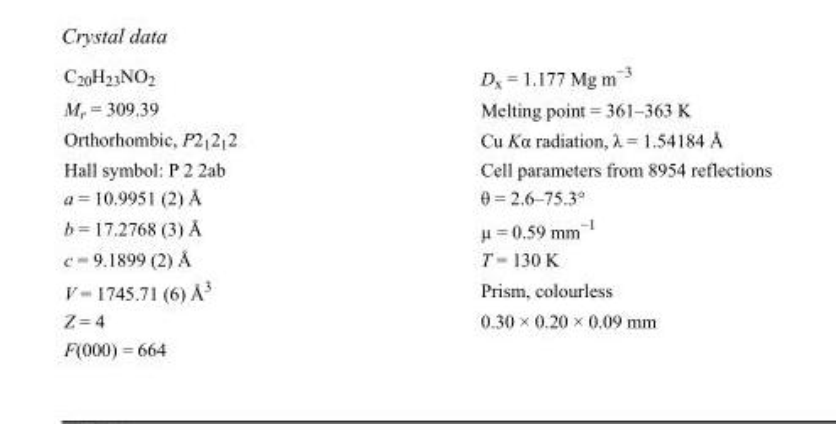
<table><tbody><tr><td>C<sub>20</sub>H<sub>23</sub>NO<sub>2</sub></td><td>D<sub>x</sub> = 1.177 Mg m<sup>−3</sup></td></tr><tr><td>M<sub>r</sub> = 309.39</td><td>Melting point = 361–363 K</td></tr><tr><td>Orthorhombic, P2<sub>1</sub>2<sub>1</sub>2</td><td>Cu Kα radiation, λ = 1.54184 Å</td></tr><tr><td>Hall symbol: P 2 2ab</td><td>Cell parameters from 8954 reflections</td></tr><tr><td>a = 10.9951 (2) Å</td><td>θ = 2.6–75.3°</td></tr><tr><td>b = 17.2768 (3) Å</td><td>µ = 0.59 mm<sup>−1</sup></td></tr><tr><td>c = 9.1899 (2) Å</td><td>T = 130 K</td></tr><tr><td>V = 1745.71 (6) Å<sup>3</sup></td><td>Prism, colourless</td></tr><tr><td>Z = 4</td><td>0.30 × 0.20 × 0.09 mm</td></tr><tr><td>F(000) = 664</td><td></td></tr></tbody></table>